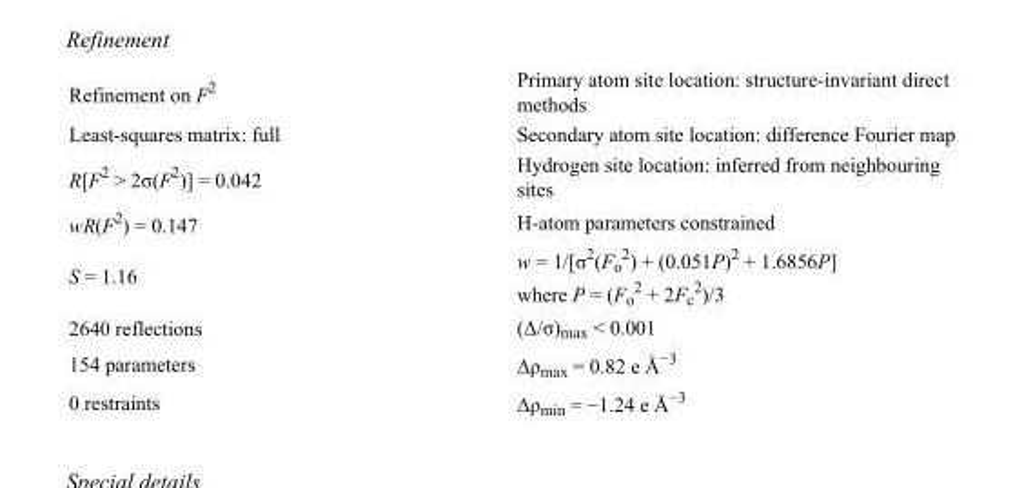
<table><tbody><tr><td>Refinement on F<sup>2</sup></td><td>Primary atom site location: structure-invariant direct methods</td></tr><tr><td>Least-squares matrix: full</td><td>Secondary atom site location: difference Fourier map</td></tr><tr><td>R[F<sup>2</sup> &gt; 2σ(F<sup>2</sup>)] = 0.042</td><td>Hydrogen site location: inferred from neighbouring sites</td></tr><tr><td>wR(F<sup>2</sup>) = 0.147</td><td>H-atom parameters constrained</td></tr><tr><td>S = 1.16</td><td>w = 1/[σ<sup>2</sup>(F<sub>o</sub> <sup>2</sup>) + (0.051P)<sup>2</sup> + 1.6856P] where P = (F<sub>o</sub> <sup>2</sup> + 2F<sub>c</sub> <sup>2</sup>)/3</td></tr><tr><td>2640 reflections</td><td>(Δ/σ)<sub>max</sub> &lt; 0.001</td></tr><tr><td>154 parameters</td><td>Δρ<sub>max</sub> = 0.82 e Å<sup>−3</sup></td></tr><tr><td>0 restraints</td><td>Δρ<sub>min</sub> = −1.24 e Å<sup>−3</sup></td></tr></tbody></table>